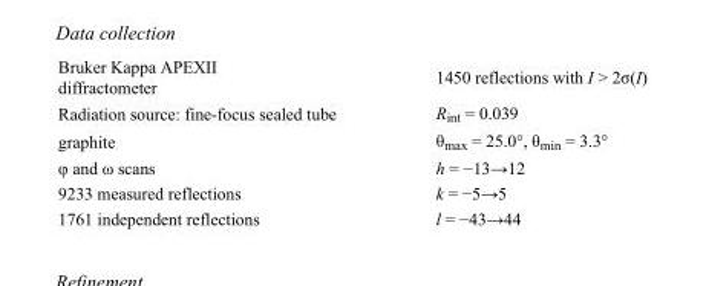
<table><tbody><tr><td>Bruker Kappa APEXII diffractometer</td><td>1450 reflections with I &gt; 2σ(I)</td></tr><tr><td>Radiation source: fine-focus sealed tube</td><td>R<sub>int</sub> = 0.039</td></tr><tr><td>graphite</td><td>θ<sub>max</sub> = 25.0°, θ<sub>min</sub> = 3.3°</td></tr><tr><td>φ and ω scans</td><td>h = −13→12</td></tr><tr><td>9233 measured reflections</td><td>k = −5→5</td></tr><tr><td>1761 independent reflections</td><td>l = −43→44</td></tr></tbody></table>